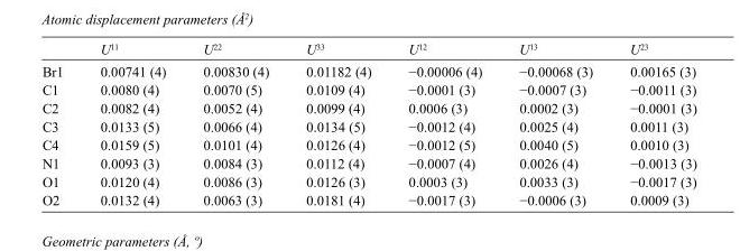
<table><thead><tr><td></td><td>U<sup>11</sup></td><td>U<sup>22</sup></td><td>U<sup>33</sup></td><td>U<sup>12</sup></td><td>U<sup>13</sup></td><td>U<sup>23</sup></td></tr></thead><tbody><tr><td>Br1</td><td>0.00741 (4)</td><td>0.00830 (4)</td><td>0.01182 (4)</td><td>−0.00006 (4)</td><td>−0.00068 (3)</td><td>0.00165 (3)</td></tr><tr><td>C1</td><td>0.0080 (4)</td><td>0.0070 (5)</td><td>0.0109 (4)</td><td>−0.0001 (3)</td><td>−0.0007 (3)</td><td>−0.0011 (3)</td></tr><tr><td>C2</td><td>0.0082 (4)</td><td>0.0052 (4)</td><td>0.0099 (4)</td><td>0.0006 (3)</td><td>0.0002 (3)</td><td>−0.0001 (3)</td></tr><tr><td>C3</td><td>0.0133 (5)</td><td>0.0066 (4)</td><td>0.0134 (5)</td><td>−0.0012 (4)</td><td>0.0025 (4)</td><td>0.0011 (3)</td></tr><tr><td>C4</td><td>0.0159 (5)</td><td>0.0101 (4)</td><td>0.0126 (4)</td><td>−0.0012 (5)</td><td>0.0040 (5)</td><td>0.0010 (3)</td></tr><tr><td>N1</td><td>0.0093 (3)</td><td>0.0084 (3)</td><td>0.0112 (4)</td><td>−0.0007 (4)</td><td>0.0026 (4)</td><td>−0.0013 (3)</td></tr><tr><td>O1</td><td>0.0120 (4)</td><td>0.0086 (3)</td><td>0.0126 (3)</td><td>0.0003 (3)</td><td>0.0033 (3)</td><td>−0.0017 (3)</td></tr><tr><td>O2</td><td>0.0132 (4)</td><td>0.0063 (3)</td><td>0.0181 (4)</td><td>−0.0017 (3)</td><td>−0.0006 (3)</td><td>0.0009 (3)</td></tr></tbody></table>